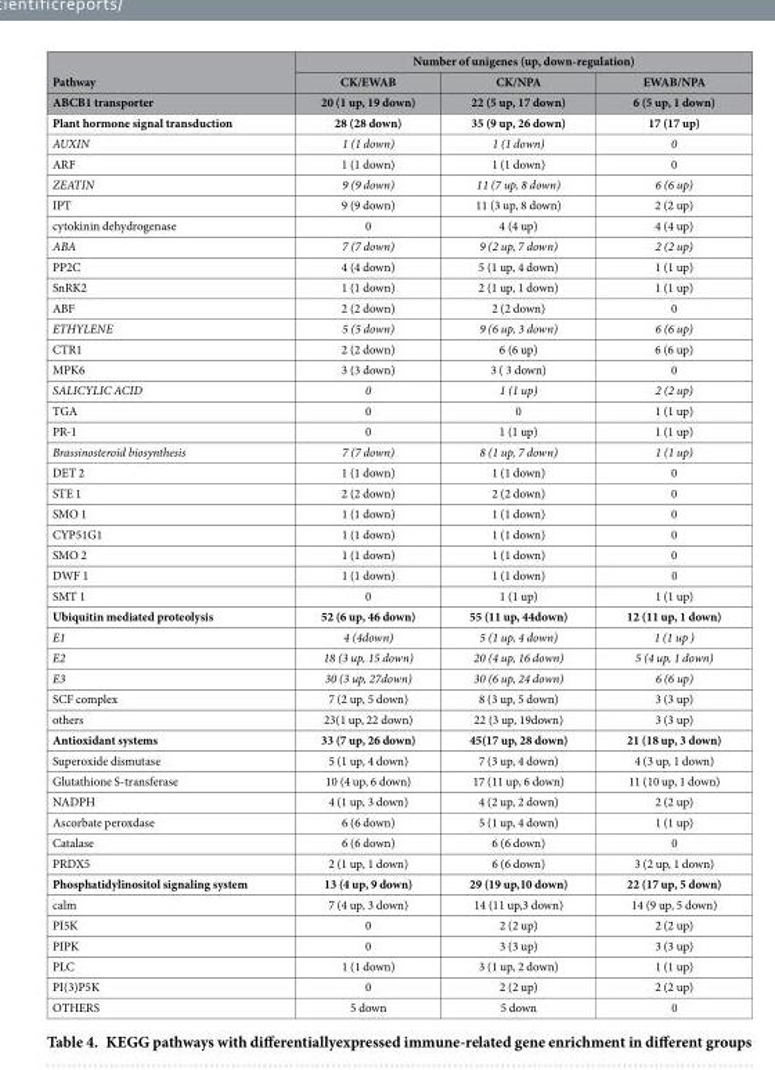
<table><thead><tr><td rowspan="3">Pathway ABCB1 transporter</td><td colspan="3">Number of unigenes (up, down-regulation)</td></tr><tr><td rowspan="2">CK/EWAB 20 (1 up, 19 down)</td><td rowspan="2">CK/NPA 22 (5 up, 17 down)</td><td rowspan="2">EWAB/NPA 6 (5 up, 1 down)</td></tr><tr></tr></thead><tbody><tr><td>Plant hormone signal transduction</td><td>28 (28 down)</td><td>35 (9 up, 26 down)</td><td>17 (17 up)</td></tr><tr><td>AUXIN</td><td>1 (1 down)</td><td>1 (1 down)</td><td>0</td></tr><tr><td>ARF</td><td>1 (1 down)</td><td>1 (1 down)</td><td>0</td></tr><tr><td>ZEATIN</td><td>9 (9 down)</td><td>11 (7 up, 8 down)</td><td>6 (6 up)</td></tr><tr><td>IPT</td><td>9 (9 down)</td><td>11 (3 up, 8 down)</td><td>2 (2 up)</td></tr><tr><td>cytokinin dehydrogenase</td><td>0</td><td>4 (4 up)</td><td>4 (4 up)</td></tr><tr><td>ABA</td><td>7 (7 down)</td><td>9 (2 up, 7 down)</td><td>2 (2 up)</td></tr><tr><td>PP2C</td><td>4 (4 down)</td><td>5 (1 up, 4 down)</td><td>1 (1 up)</td></tr><tr><td>SnRK2</td><td>1 (1 down)</td><td>2 (1 up, 1 down)</td><td>1 (1 up)</td></tr><tr><td>ABF</td><td>2 (2 down)</td><td>2 (2 down)</td><td>0</td></tr><tr><td>ETHYLENE</td><td>5 (5 down)</td><td>9 (6 up, 3 down)</td><td>6 (6 up)</td></tr><tr><td>CTR1</td><td>2 (2 down)</td><td>6 (6 up)</td><td>6 (6 up)</td></tr><tr><td>MPK6</td><td>3 (3 down)</td><td>3 ( 3 down)</td><td>0</td></tr><tr><td>SALICYLIC ACID</td><td>0</td><td>1 (1 up)</td><td>2 (2 up)</td></tr><tr><td>TGA</td><td>0</td><td>0</td><td>1 (1 up)</td></tr><tr><td>PR-1</td><td>0</td><td>1 (1 up)</td><td>1 (1 up)</td></tr><tr><td>Brassinosteroid biosynthesis</td><td>7 (7 down)</td><td>8 (1 up, 7 down)</td><td>1 (1 up)</td></tr><tr><td>DET 2</td><td>1 (1 down)</td><td>1 (1 down)</td><td>0</td></tr><tr><td>STE 1</td><td>2 (2 down)</td><td>2 (2 down)</td><td>0</td></tr><tr><td>SMO 1</td><td>1 (1 down)</td><td>1 (1 down)</td><td>0</td></tr><tr><td>CYP51G1</td><td>1 (1 down)</td><td>1 (1 down)</td><td>0</td></tr><tr><td>SMO 2</td><td>1 (1 down)</td><td>1 (1 down)</td><td>0</td></tr><tr><td>DWF 1</td><td>1 (1 down)</td><td>1 (1 down)</td><td>0</td></tr><tr><td>SMT 1</td><td>0</td><td>1 (1 up)</td><td>1 (1 up)</td></tr><tr><td>Ubiquitin mediated proteolysis</td><td>52 (6 up, 46 down)</td><td>55 (11 up, 44down)</td><td>12 (11 up, 1 down)</td></tr><tr><td>E1</td><td>4 (4down)</td><td>5 (1 up, 4 down)</td><td>1 (1 up )</td></tr><tr><td>E2</td><td>18 (3 up, 15 down)</td><td>20 (4 up, 16 down)</td><td>5 (4 up, 1 down)</td></tr><tr><td>E3</td><td>30 (3 up, 27down)</td><td>30 (6 up, 24 down)</td><td>6 (6 up)</td></tr><tr><td>SCF complex</td><td>7 (2 up, 5 down)</td><td>8 (3 up, 5 down)</td><td>3 (3 up)</td></tr><tr><td>others</td><td>23(1 up, 22 down)</td><td>22 (3 up, 19down)</td><td>3 (3 up)</td></tr><tr><td>Antioxidant systems</td><td>33 (7 up, 26 down)</td><td>45(17 up, 28 down)</td><td>21 (18 up, 3 down)</td></tr><tr><td>Superoxide dismutase</td><td>5 (1 up, 4 down)</td><td>7 (3 up, 4 down)</td><td>4 (3 up, 1 down)</td></tr><tr><td>Glutathione S-transferase</td><td>10 (4 up, 6 down)</td><td>17 (11 up, 6 down)</td><td>11 (10 up, 1 down)</td></tr><tr><td>NADPH</td><td>4 (1 up, 3 down)</td><td>4 (2 up, 2 down)</td><td>2 (2 up)</td></tr><tr><td>Ascorbate peroxdase</td><td>6 (6 down)</td><td>5 (1 up, 4 down)</td><td>1 (1 up)</td></tr><tr><td>Catalase</td><td>6 (6 down)</td><td>6 (6 down)</td><td>0</td></tr><tr><td>PRDX5</td><td>2 (1 up, 1 down)</td><td>6 (6 down)</td><td>3 (2 up, 1 down)</td></tr><tr><td>Phosphatidylinositol signaling system</td><td>13 (4 up, 9 down)</td><td>29 (19 up,10 down)</td><td>22 (17 up, 5 down)</td></tr><tr><td>calm</td><td>7 (4 up, 3 down)</td><td>14 (11 up,3 down)</td><td>14 (9 up, 5 down)</td></tr><tr><td>PI5K</td><td>0</td><td>2 (2 up)</td><td>2 (2 up)</td></tr><tr><td>PIPK</td><td>0</td><td>3 (3 up)</td><td>3 (3 up)</td></tr><tr><td>PLC</td><td>1 (1 down)</td><td>3 (1 up, 2 down)</td><td>1 (1 up)</td></tr><tr><td>PI(3)P5K</td><td>0</td><td>2 (2 up)</td><td>2 (2 up)</td></tr><tr><td>OTHERS</td><td>5 down</td><td>5 down</td><td>0</td></tr></tbody></table>